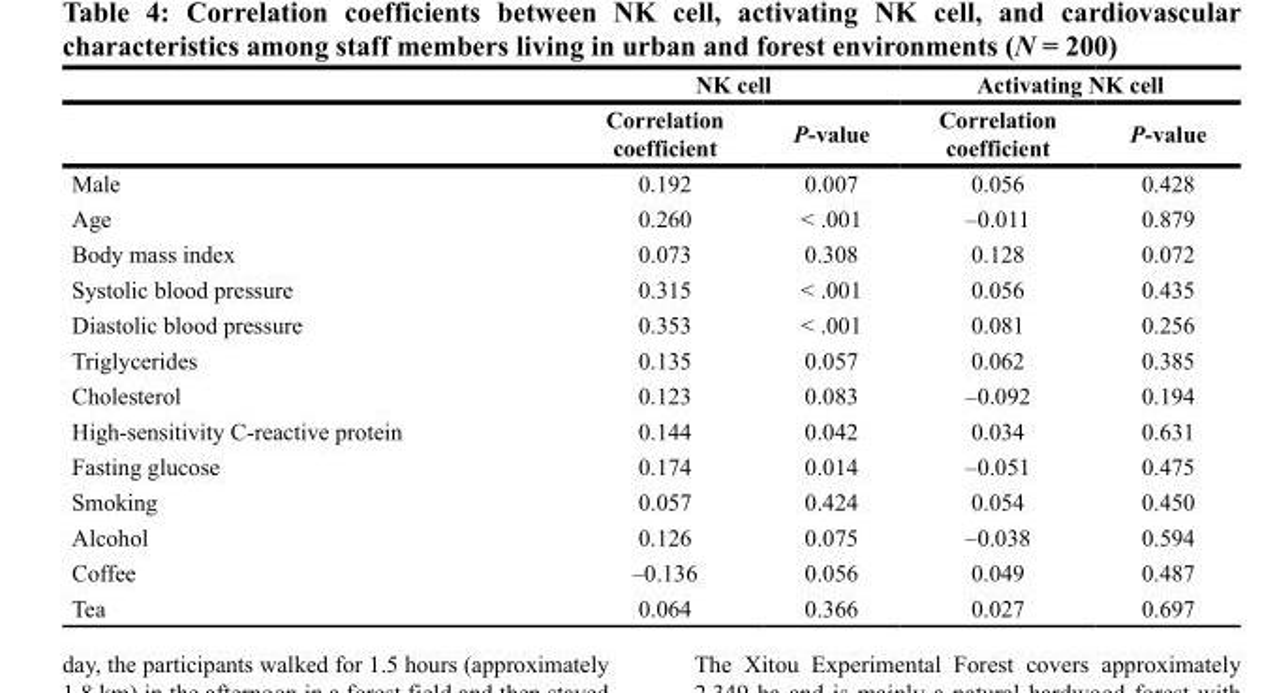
<table><thead><tr><td rowspan="2"></td><td colspan="2">NK cell</td><td colspan="2">Activating NK cell</td></tr><tr><td>Correlation coefficient</td><td>P-value</td><td>Correlation coefficient</td><td>P-value</td></tr></thead><tbody><tr><td>Male</td><td>0.192</td><td>0.007</td><td>0.056</td><td>0.428</td></tr><tr><td>Age</td><td>0.260</td><td>&lt; .001</td><td>–0.011</td><td>0.879</td></tr><tr><td>Body mass index</td><td>0.073</td><td>0.308</td><td>0.128</td><td>0.072</td></tr><tr><td>Systolic blood pressure</td><td>0.315</td><td>&lt; .001</td><td>0.056</td><td>0.435</td></tr><tr><td>Diastolic blood pressure</td><td>0.353</td><td>&lt; .001</td><td>0.081</td><td>0.256</td></tr><tr><td>Triglycerides</td><td>0.135</td><td>0.057</td><td>0.062</td><td>0.385</td></tr><tr><td>Cholesterol</td><td>0.123</td><td>0.083</td><td>–0.092</td><td>0.194</td></tr><tr><td>High-sensitivity C-reactive protein</td><td>0.144</td><td>0.042</td><td>0.034</td><td>0.631</td></tr><tr><td>Fasting glucose</td><td>0.174</td><td>0.014</td><td>–0.051</td><td>0.475</td></tr><tr><td>Smoking</td><td>0.057</td><td>0.424</td><td>0.054</td><td>0.450</td></tr><tr><td>Alcohol</td><td>0.126</td><td>0.075</td><td>–0.038</td><td>0.594</td></tr><tr><td>Coffee</td><td>–0.136</td><td>0.056</td><td>0.049</td><td>0.487</td></tr><tr><td>Tea</td><td>0.064</td><td>0.366</td><td>0.027</td><td>0.697</td></tr></tbody></table>